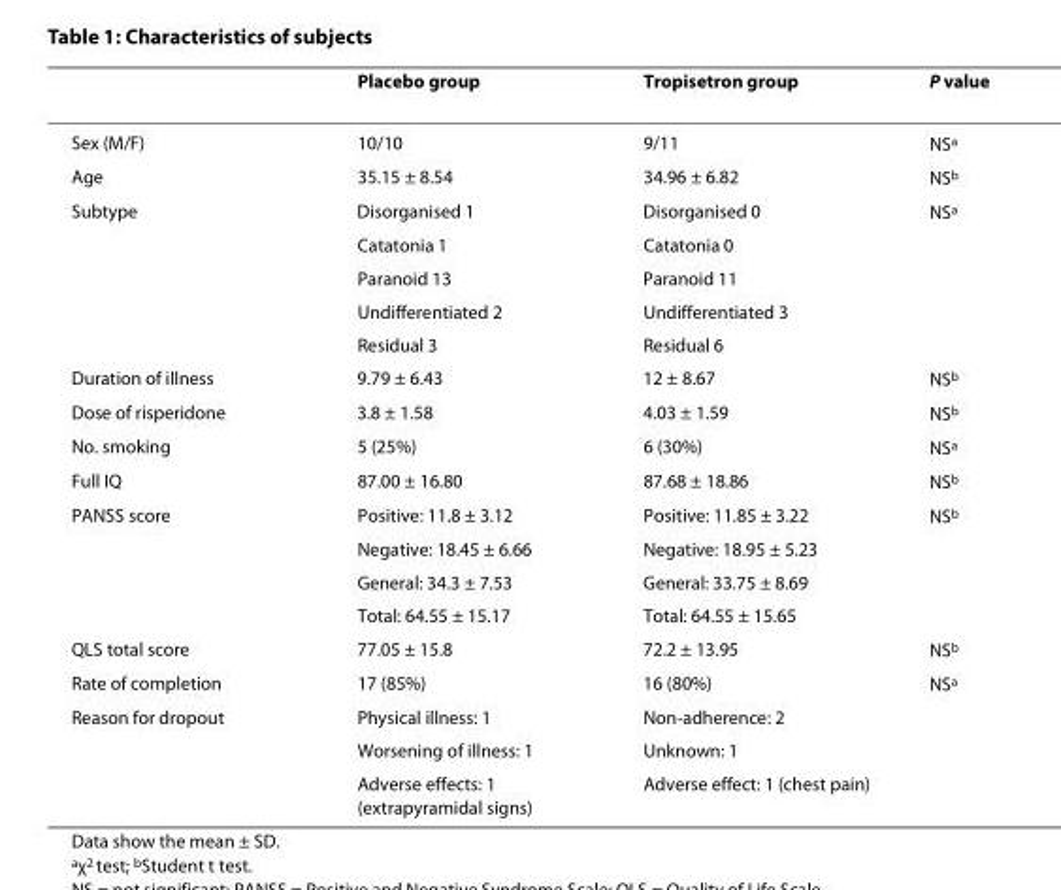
<table><thead><tr><td></td><td>Placebo group</td><td>Tropisetron group</td><td>P value</td></tr></thead><tbody><tr><td>Sex (M/F)</td><td>10/10</td><td>9/11</td><td>NS<sup>a</sup></td></tr><tr><td>Age</td><td>35.15 ± 8.54</td><td>34.96 ± 6.82</td><td>NS<sup>b</sup></td></tr><tr><td rowspan="5">Subtype</td><td>Disorganised 1</td><td>Disorganised 0</td><td>NS<sup>a</sup></td></tr><tr><td>Catatonia 1</td><td>Catatonia 0</td><td></td></tr><tr><td>Paranoid 13</td><td>Paranoid 11</td><td></td></tr><tr><td>Undifferentiated 2</td><td>Undifferentiated 3</td><td></td></tr><tr><td>Residual 3</td><td>Residual 6</td><td></td></tr><tr><td>Duration of illness</td><td>9.79 ± 6.43</td><td>12 ± 8.67</td><td>NS<sup>b</sup></td></tr><tr><td>Dose of risperidone</td><td>3.8 ± 1.58</td><td>4.03 ± 1.59</td><td>NS<sup>b</sup></td></tr><tr><td>No. smoking</td><td>5 (25%)</td><td>6 (30%)</td><td>NS<sup>a</sup></td></tr><tr><td>Full IQ</td><td>87.00 ± 16.80</td><td>87.68 ± 18.86</td><td>NS<sup>b</sup></td></tr><tr><td rowspan="4">PANSS score</td><td>Positive: 11.8 ± 3.12</td><td>Positive: 11.85 ± 3.22</td><td>NS<sup>b</sup></td></tr><tr><td>Negative: 18.45 ± 6.66</td><td>Negative: 18.95 ± 5.23</td><td></td></tr><tr><td>General: 34.3 ± 7.53</td><td>General: 33.75 ± 8.69</td><td></td></tr><tr><td>Total: 64.55 ± 15.17</td><td>Total: 64.55 ± 15.65</td><td></td></tr><tr><td>QLS total score</td><td>77.05 ± 15.8</td><td>72.2 ± 13.95</td><td>NS<sup>b</sup></td></tr><tr><td>Rate of completion</td><td>17 (85%)</td><td>16 (80%)</td><td>NS<sup>a</sup></td></tr><tr><td rowspan="3">Reason for dropout</td><td>Physical illness: 1</td><td>Non-adherence: 2</td><td></td></tr><tr><td>Worsening of illness: 1</td><td>Unknown: 1</td><td></td></tr><tr><td>Adverse effects: 1 (extrapyramidal signs)</td><td>Adverse effect: 1 (chest pain)</td><td></td></tr></tbody></table>